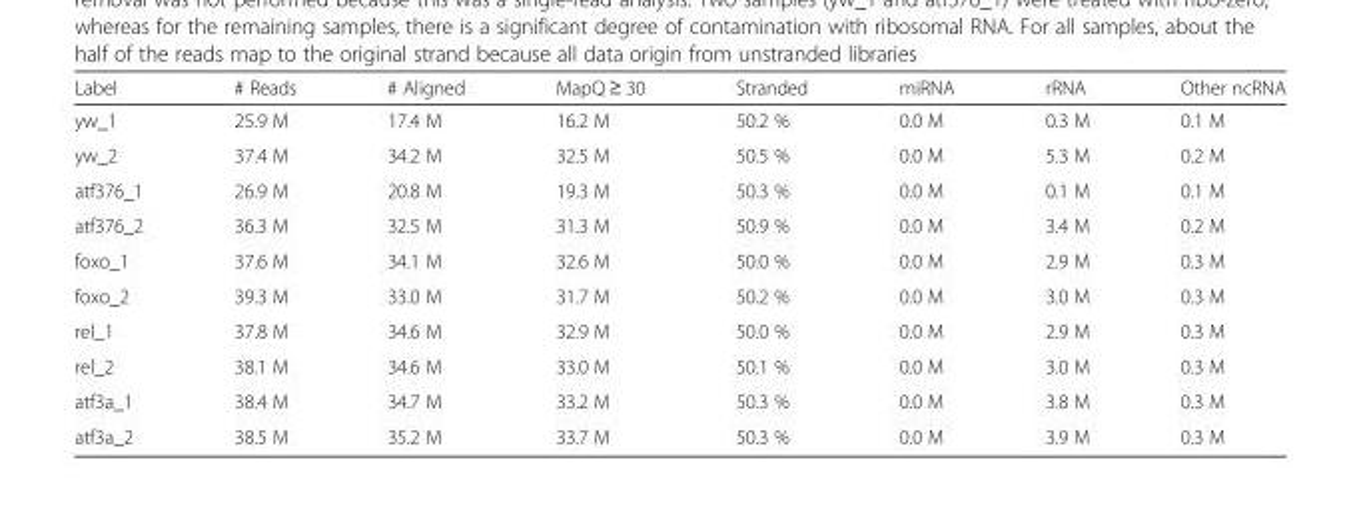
<table><thead><tr><td>Label</td><td># Reads</td><td># Aligned</td><td>MapQ ≥ 30</td><td>Stranded</td><td>miRNA</td><td>rRNA</td><td>Other ncRNA</td></tr></thead><tbody><tr><td>yw_1</td><td>25.9 M</td><td>17.4 M</td><td>16.2 M</td><td>50.2 %</td><td>0.0 M</td><td>0.3 M</td><td>0.1 M</td></tr><tr><td>yw_2</td><td>37.4 M</td><td>34.2 M</td><td>32.5 M</td><td>50.5 %</td><td>0.0 M</td><td>5.3 M</td><td>0.2 M</td></tr><tr><td>atf376_1</td><td>26.9 M</td><td>20.8 M</td><td>19.3 M</td><td>50.3 %</td><td>0.0 M</td><td>0.1 M</td><td>0.1 M</td></tr><tr><td>atf376_2</td><td>36.3 M</td><td>32.5 M</td><td>31.3 M</td><td>50.9 %</td><td>0.0 M</td><td>3.4 M</td><td>0.2 M</td></tr><tr><td>foxo_1</td><td>37.6 M</td><td>34.1 M</td><td>32.6 M</td><td>50.0 %</td><td>0.0 M</td><td>2.9 M</td><td>0.3 M</td></tr><tr><td>foxo_2</td><td>39.3 M</td><td>33.0 M</td><td>31.7 M</td><td>50.2 %</td><td>0.0 M</td><td>3.0 M</td><td>0.3 M</td></tr><tr><td>rel_1</td><td>37.8 M</td><td>34.6 M</td><td>32.9 M</td><td>50.0 %</td><td>0.0 M</td><td>2.9 M</td><td>0.3 M</td></tr><tr><td>rel_2</td><td>38.1 M</td><td>34.6 M</td><td>33.0 M</td><td>50.1 %</td><td>0.0 M</td><td>3.0 M</td><td>0.3 M</td></tr><tr><td>atf3a_1</td><td>38.4 M</td><td>34.7 M</td><td>33.2 M</td><td>50.3 %</td><td>0.0 M</td><td>3.8 M</td><td>0.3 M</td></tr><tr><td>atf3a_2</td><td>38.5 M</td><td>35.2 M</td><td>33.7 M</td><td>50.3 %</td><td>0.0 M</td><td>3.9 M</td><td>0.3 M</td></tr></tbody></table>